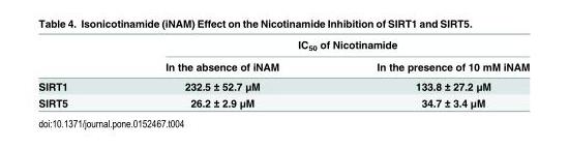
<table><thead><tr><td rowspan="2"></td><td colspan="2">IC<sub>50</sub> of Nicotinamide</td></tr><tr><td>In the absence of iNAM</td><td>In the presence of 10 mM iNAM</td></tr></thead><tbody><tr><td>SIRT1</td><td>232.5 ± 52.7 μM</td><td>133.8 ± 27.2 μM</td></tr><tr><td>SIRT5</td><td>26.2 ± 2.9 μM</td><td>34.7 ± 3.4 μM</td></tr></tbody></table>